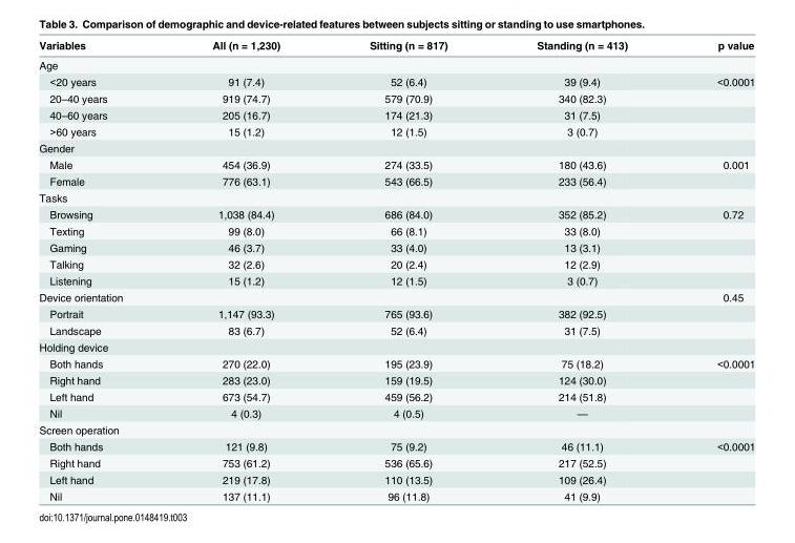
<table><thead><tr><td>Variables</td><td>All (n = 1,230)</td><td>Sitting (n = 817)</td><td>Standing (n = 413)</td><td>p value</td></tr></thead><tbody><tr><td colspan="5">Age</td></tr><tr><td>&lt;20 years</td><td>91 (7.4)</td><td>52 (6.4)</td><td>39 (9.4)</td><td>&lt;0.0001</td></tr><tr><td>20–40 years</td><td>919 (74.7)</td><td>579 (70.9)</td><td>340 (82.3)</td><td></td></tr><tr><td>40–60 years</td><td>205 (16.7)</td><td>174 (21.3)</td><td>31 (7.5)</td><td></td></tr><tr><td>&gt;60 years</td><td>15 (1.2)</td><td>12 (1.5)</td><td>3 (0.7)</td><td></td></tr><tr><td colspan="5">Gender</td></tr><tr><td>Male</td><td>454 (36.9)</td><td>274 (33.5)</td><td>180 (43.6)</td><td>0.001</td></tr><tr><td>Female</td><td>776 (63.1)</td><td>543 (66.5)</td><td>233 (56.4)</td><td></td></tr><tr><td colspan="5">Tasks</td></tr><tr><td>Browsing</td><td>1,038 (84.4)</td><td>686 (84.0)</td><td>352 (85.2)</td><td>0.72</td></tr><tr><td>Texting</td><td>99 (8.0)</td><td>66 (8.1)</td><td>33 (8.0)</td><td></td></tr><tr><td>Gaming</td><td>46 (3.7)</td><td>33 (4.0)</td><td>13 (3.1)</td><td></td></tr><tr><td>Talking</td><td>32 (2.6)</td><td>20 (2.4)</td><td>12 (2.9)</td><td></td></tr><tr><td>Listening</td><td>15 (1.2)</td><td>12 (1.5)</td><td>3 (0.7)</td><td></td></tr><tr><td>Device orientation</td><td></td><td></td><td></td><td>0.45</td></tr><tr><td>Portrait</td><td>1,147 (93.3)</td><td>765 (93.6)</td><td>382 (92.5)</td><td></td></tr><tr><td>Landscape</td><td>83 (6.7)</td><td>52 (6.4)</td><td>31 (7.5)</td><td></td></tr><tr><td colspan="5">Holding device</td></tr><tr><td>Both hands</td><td>270 (22.0)</td><td>195 (23.9)</td><td>75 (18.2)</td><td>&lt;0.0001</td></tr><tr><td>Right hand</td><td>283 (23.0)</td><td>159 (19.5)</td><td>124 (30.0)</td><td></td></tr><tr><td>Left hand</td><td>673 (54.7)</td><td>459 (56.2)</td><td>214 (51.8)</td><td></td></tr><tr><td>Nil</td><td>4 (0.3)</td><td>4 (0.5)</td><td>—</td><td></td></tr><tr><td colspan="5">Screen operation</td></tr><tr><td>Both hands</td><td>121 (9.8)</td><td>75 (9.2)</td><td>46 (11.1)</td><td>&lt;0.0001</td></tr><tr><td>Right hand</td><td>753 (61.2)</td><td>536 (65.6)</td><td>217 (52.5)</td><td></td></tr><tr><td>Left hand</td><td>219 (17.8)</td><td>110 (13.5)</td><td>109 (26.4)</td><td></td></tr><tr><td>Nil</td><td>137 (11.1)</td><td>96 (11.8)</td><td>41 (9.9)</td><td></td></tr></tbody></table>